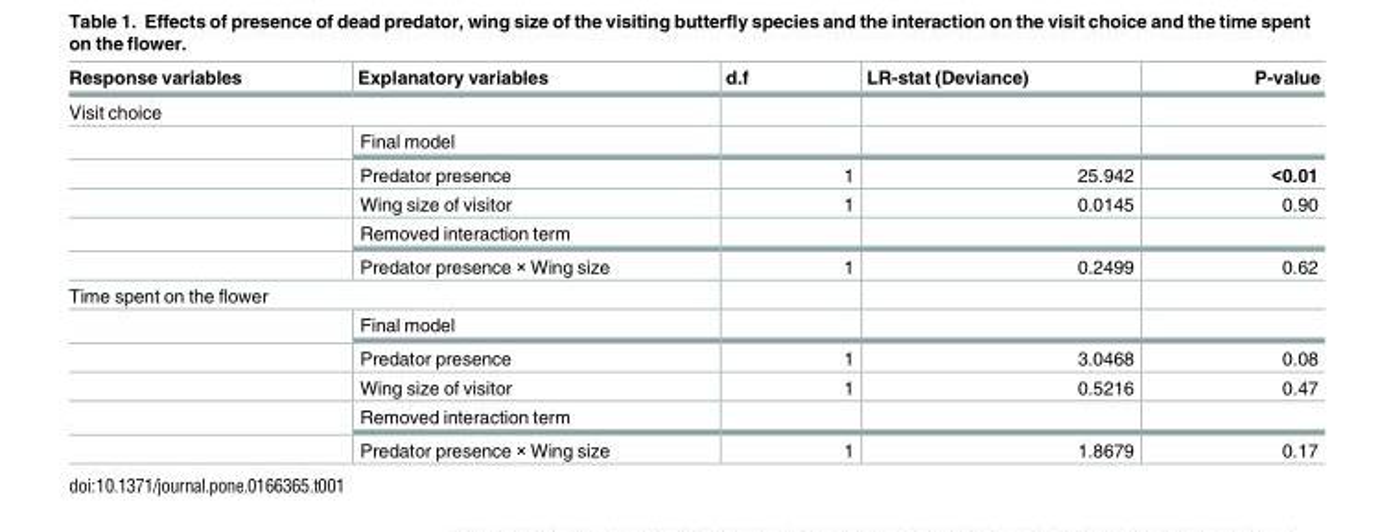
<table><thead><tr><td>Response variables</td><td>Explanatory variables</td><td>d.f</td><td>LR-stat (Deviance)</td><td>P-value</td></tr></thead><tbody><tr><td colspan="5">Visit choice</td></tr><tr><td></td><td>Final model</td><td></td><td></td><td></td></tr><tr><td></td><td>Predator presence</td><td>1</td><td>25.942</td><td>&lt;0.01</td></tr><tr><td></td><td>Wing size of visitor</td><td>1</td><td>0.0145</td><td>0.90</td></tr><tr><td></td><td>Removed interaction term</td><td></td><td></td><td></td></tr><tr><td></td><td>Predator presence × Wing size</td><td>1</td><td>0.2499</td><td>0.62</td></tr><tr><td colspan="5">Time spent on the flower</td></tr><tr><td></td><td>Final model</td><td></td><td></td><td></td></tr><tr><td></td><td>Predator presence</td><td>1</td><td>3.0468</td><td>0.08</td></tr><tr><td></td><td>Wing size of visitor</td><td>1</td><td>0.5216</td><td>0.47</td></tr><tr><td></td><td>Removed interaction term</td><td></td><td></td><td></td></tr><tr><td></td><td>Predator presence × Wing size</td><td>1</td><td>1.8679</td><td>0.17</td></tr></tbody></table>